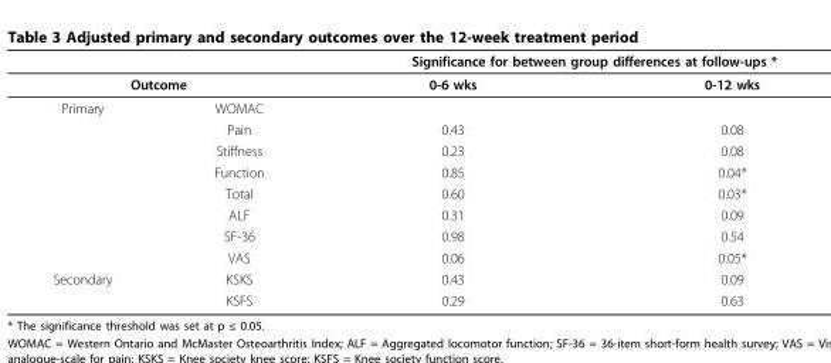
<table><thead><tr><td></td><td></td><td colspan="2">Significance for between group differences at follow-ups *</td></tr><tr><td colspan="2">Outcome</td><td>0-6 wks</td><td>0-12 wks</td></tr></thead><tbody><tr><td rowspan="8">Primary</td><td>WOMAC</td><td></td><td></td></tr><tr><td>Pain</td><td>0.43</td><td>0.08</td></tr><tr><td>Stiffness</td><td>0.23</td><td>0.08</td></tr><tr><td>Function</td><td>0.85</td><td>0.04*</td></tr><tr><td>Total</td><td>0.60</td><td>0.03*</td></tr><tr><td>ALF</td><td>0.31</td><td>0.09</td></tr><tr><td>SF-36</td><td>0.98</td><td>0.54</td></tr><tr><td>VAS</td><td>0.06</td><td>0.05*</td></tr><tr><td rowspan="2">Secondary</td><td>KSKS</td><td>0.43</td><td>0.09</td></tr><tr><td>KSFS</td><td>0.29</td><td>0.63</td></tr></tbody></table>